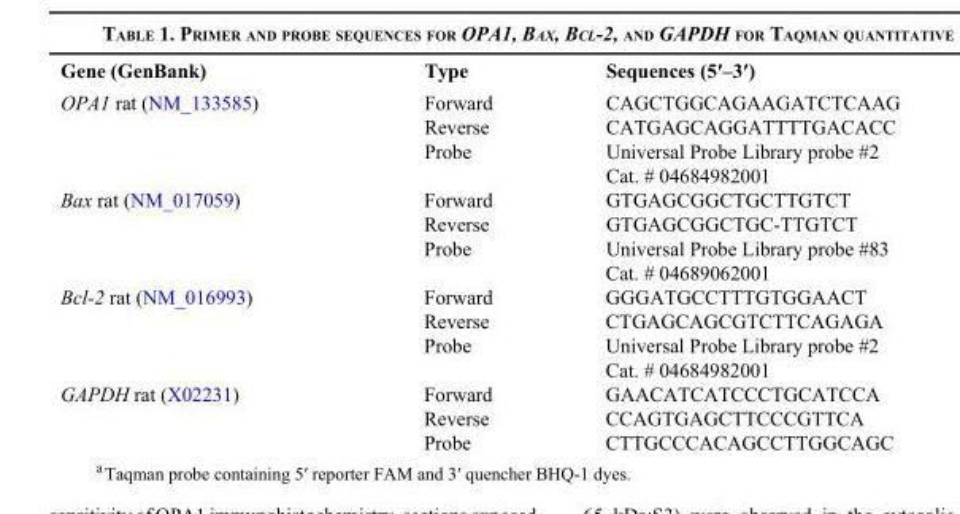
<table><thead><tr><td>Gene (GenBank)</td><td>Type</td><td>Sequences (5′–3′)</td></tr></thead><tbody><tr><td rowspan="4">OPA1 rat (NM_133585)</td><td>Forward</td><td>CAGCTGGCAGAAGATCTCAAG</td></tr><tr><td>Reverse</td><td>CATGAGCAGGATTTTGACACC</td></tr><tr><td>Probe</td><td>Universal Probe Library probe #2</td></tr><tr><td></td><td>Cat. # 04684982001</td></tr><tr><td rowspan="4">Bax rat (NM_017059)</td><td>Forward</td><td>GTGAGCGGCTGCTTGTCT</td></tr><tr><td>Reverse</td><td>GTGAGCGGCTGC-TTGTCT</td></tr><tr><td>Probe</td><td>Universal Probe Library probe #83</td></tr><tr><td></td><td>Cat. # 04689062001</td></tr><tr><td rowspan="4">Bcl-2 rat (NM_016993)</td><td>Forward</td><td>GGGATGCCTTTGTGGAACT</td></tr><tr><td>Reverse</td><td>CTGAGCAGCGTCTTCAGAGA</td></tr><tr><td>Probe</td><td>Universal Probe Library probe #2</td></tr><tr><td></td><td>Cat. # 04684982001</td></tr><tr><td rowspan="3">GAPDH rat (X02231)</td><td>Forward</td><td>GAACATCATCCCTGCATCCA</td></tr><tr><td>Reverse</td><td>CCAGTGAGCTTCCCGTTCA</td></tr><tr><td>Probe</td><td>CTTGCCCACAGCCTTGGCAGC</td></tr></tbody></table>